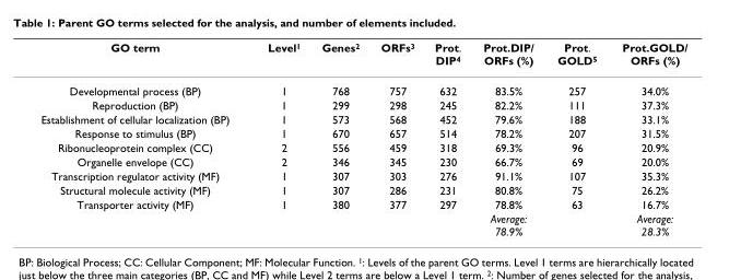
<table><thead><tr><td>GO term</td><td>Level<sup>1</sup></td><td>Genes<sup>2</sup></td><td>ORFs<sup>3</sup></td><td>Prot. DIP<sup>4</sup></td><td>Prot.DIP/ ORFs (%)</td><td>Prot. GOLD<sup>5</sup></td><td>Prot.GOLD/ ORFs (%)</td></tr></thead><tbody><tr><td>Developmental process (BP)</td><td>1</td><td>768</td><td>757</td><td>632</td><td>83.5%</td><td>257</td><td>34.0%</td></tr><tr><td>Reproduction (BP)</td><td>1</td><td>299</td><td>298</td><td>245</td><td>82.2%</td><td>111</td><td>37.3%</td></tr><tr><td>Establishment of cellular localization (BP)</td><td>1</td><td>573</td><td>568</td><td>452</td><td>79.6%</td><td>188</td><td>33.1%</td></tr><tr><td>Response to stimulus (BP)</td><td>1</td><td>670</td><td>657</td><td>514</td><td>78.2%</td><td>207</td><td>31.5%</td></tr><tr><td>Ribonucleoprotein complex (CC)</td><td>2</td><td>556</td><td>459</td><td>318</td><td>69.3%</td><td>96</td><td>20.9%</td></tr><tr><td>Organelle envelope (CC)</td><td>2</td><td>346</td><td>345</td><td>230</td><td>66.7%</td><td>69</td><td>20.0%</td></tr><tr><td>Transcription regulator activity (MF)</td><td>1</td><td>307</td><td>303</td><td>276</td><td>91.1%</td><td>107</td><td>35.3%</td></tr><tr><td>Structural molecule activity (MF)</td><td>1</td><td>307</td><td>286</td><td>231</td><td>80.8%</td><td>75</td><td>26.2%</td></tr><tr><td rowspan="2">Transporter activity (MF)</td><td>1</td><td>380</td><td>377</td><td>297</td><td>78.8%</td><td>63</td><td>16.7%</td></tr><tr><td></td><td></td><td></td><td></td><td>Average: 78.9%</td><td></td><td>Average: 28.3%</td></tr></tbody></table>